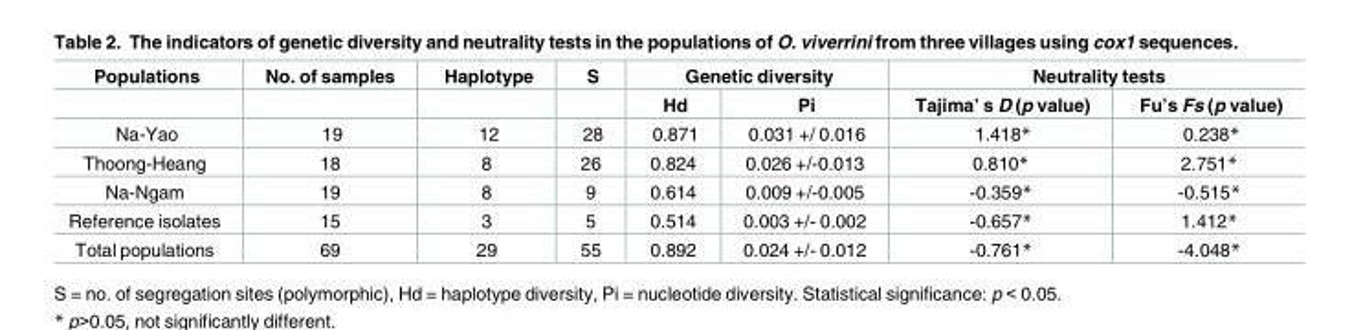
<table><thead><tr><td rowspan="2">Populations</td><td rowspan="2">No. of samples</td><td rowspan="2">Haplotype</td><td rowspan="2">S</td><td colspan="2">Genetic diversity</td><td colspan="2">Neutrality tests</td></tr><tr><td>Hd</td><td>Pi</td><td>Tajima’ s D (p value)</td><td>Fu’s Fs (p value)</td></tr></thead><tbody><tr><td>Na-Yao</td><td>19</td><td>12</td><td>28</td><td>0.871</td><td>0.031 +/ 0.016</td><td>1.418*</td><td>0.238*</td></tr><tr><td>Thoong-Heang</td><td>18</td><td>8</td><td>26</td><td>0.824</td><td>0.026 +/-0.013</td><td>0.810*</td><td>2.751*</td></tr><tr><td>Na-Ngam</td><td>19</td><td>8</td><td>9</td><td>0.614</td><td>0.009 +/-0.005</td><td>-0.359*</td><td>-0.515*</td></tr><tr><td>Reference isolates</td><td>15</td><td>3</td><td>5</td><td>0.514</td><td>0.003 +/- 0.002</td><td>-0.657*</td><td>1.412*</td></tr><tr><td>Total populations</td><td>69</td><td>29</td><td>55</td><td>0.892</td><td>0.024 +/- 0.012</td><td>-0.761*</td><td>-4.048*</td></tr></tbody></table>